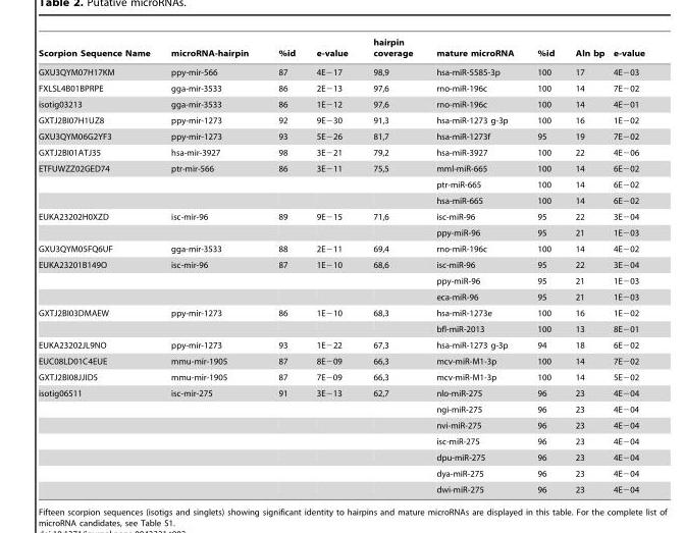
<table><thead><tr><td>Scorpion Sequence Name</td><td>microRNA-hairpin</td><td>%id</td><td>e-value</td><td>hairpin coverage</td><td>mature microRNA</td><td>%id</td><td>Aln bp</td><td>e-value</td></tr></thead><tbody><tr><td>GXU3QYM07H17KM</td><td>ppy-mir-566</td><td>87</td><td>4E−17</td><td>98,9</td><td>hsa-miR-5585-3p</td><td>100</td><td>17</td><td>4E−03</td></tr><tr><td>FXLSL4B01BPRPE</td><td>gga-mir-3533</td><td>86</td><td>2E−13</td><td>97,6</td><td>rno-miR-196c</td><td>100</td><td>14</td><td>7E−02</td></tr><tr><td>isotig03213</td><td>gga-mir-3533</td><td>86</td><td>1E−12</td><td>97,6</td><td>rno-miR-196c</td><td>100</td><td>14</td><td>4E−01</td></tr><tr><td>GXTJ2BI07H1UZ8</td><td>ppy-mir-1273</td><td>92</td><td>9E−30</td><td>91,3</td><td>hsa-miR-1273 g-3p</td><td>100</td><td>16</td><td>1E−02</td></tr><tr><td>GXU3QYM06G2YF3</td><td>ppy-mir-1273</td><td>93</td><td>5E−26</td><td>81,7</td><td>hsa-miR-1273f</td><td>95</td><td>19</td><td>7E−02</td></tr><tr><td>GXTJ2BI01ATJ35</td><td>hsa-mir-3927</td><td>98</td><td>3E−21</td><td>79,2</td><td>hsa-miR-3927</td><td>100</td><td>22</td><td>4E−06</td></tr><tr><td rowspan="3">ETFUWZZ02GED74</td><td>ptr-mir-566</td><td>86</td><td>3E−11</td><td>75,5</td><td>mml-miR-665</td><td>100</td><td>14</td><td>6E−02</td></tr><tr><td></td><td></td><td></td><td></td><td>ptr-miR-665</td><td>100</td><td>14</td><td>6E−02</td></tr><tr><td></td><td></td><td></td><td></td><td>hsa-miR-665</td><td>100</td><td>14</td><td>6E−02</td></tr><tr><td rowspan="2">EUKA23202H0XZD</td><td>isc-mir-96</td><td>89</td><td>9E−15</td><td>71,6</td><td>isc-miR-96</td><td>95</td><td>22</td><td>3E−04</td></tr><tr><td></td><td></td><td></td><td></td><td>ppy-miR-96</td><td>95</td><td>21</td><td>1E−03</td></tr><tr><td>GXU3QYM05FQ6UF</td><td>gga-mir-3533</td><td>88</td><td>2E−11</td><td>69,4</td><td>rno-miR-196c</td><td>100</td><td>14</td><td>4E−02</td></tr><tr><td rowspan="3">EUKA23201B149O</td><td>isc-mir-96</td><td>87</td><td>1E−10</td><td>68,6</td><td>isc-miR-96</td><td>95</td><td>22</td><td>3E−04</td></tr><tr><td></td><td></td><td></td><td></td><td>ppy-miR-96</td><td>95</td><td>21</td><td>1E−03</td></tr><tr><td></td><td></td><td></td><td></td><td>eca-miR-96</td><td>95</td><td>21</td><td>1E−03</td></tr><tr><td rowspan="2">GXTJ2BI03DMAEW</td><td>ppy-mir-1273</td><td>86</td><td>1E−10</td><td>68,3</td><td>hsa-miR-1273e</td><td>100</td><td>16</td><td>1E−02</td></tr><tr><td></td><td></td><td></td><td></td><td>bfl-miR-2013</td><td>100</td><td>13</td><td>8E−01</td></tr><tr><td>EUKA23202JL9NO</td><td>ppy-mir-1273</td><td>93</td><td>1E−22</td><td>67,3</td><td>hsa-miR-1273 g-3p</td><td>94</td><td>18</td><td>6E−02</td></tr><tr><td>EUC08LD01C4EUE</td><td>mmu-mir-1905</td><td>87</td><td>8E−09</td><td>66,3</td><td>mcv-miR-M1-3p</td><td>100</td><td>14</td><td>7E−02</td></tr><tr><td>GXTJ2BI08JJID5</td><td>mmu-mir-1905</td><td>87</td><td>7E−09</td><td>66,3</td><td>mcv-miR-M1-3p</td><td>100</td><td>14</td><td>5E−02</td></tr><tr><td rowspan="7">isotig06511</td><td>isc-mir-275</td><td>91</td><td>3E−13</td><td>62,7</td><td>nlo-miR-275</td><td>96</td><td>23</td><td>4E−04</td></tr><tr><td></td><td></td><td></td><td></td><td>ngi-miR-275</td><td>96</td><td>23</td><td>4E−04</td></tr><tr><td></td><td></td><td></td><td></td><td>nvi-miR-275</td><td>96</td><td>23</td><td>4E−04</td></tr><tr><td></td><td></td><td></td><td></td><td>isc-miR-275</td><td>96</td><td>23</td><td>4E−04</td></tr><tr><td></td><td></td><td></td><td></td><td>dpu-miR-275</td><td>96</td><td>23</td><td>4E−04</td></tr><tr><td></td><td></td><td></td><td></td><td>dya-miR-275</td><td>96</td><td>23</td><td>4E−04</td></tr><tr><td></td><td></td><td></td><td></td><td>dwi-miR-275</td><td>96</td><td>23</td><td>4E−04</td></tr></tbody></table>